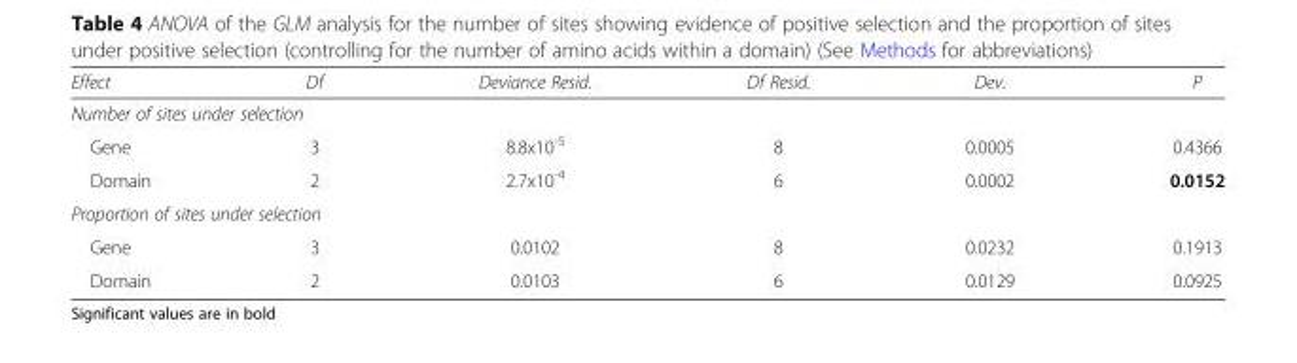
<table><thead><tr><td>Effect</td><td>Df</td><td>Deviance Resid.</td><td>Df Resid.</td><td>Dev.</td><td>P</td></tr></thead><tbody><tr><td colspan="6">Number of sites under selection</td></tr><tr><td>Gene</td><td>3</td><td>8.8x10<sup>-5</sup></td><td>8</td><td>0.0005</td><td>0.4366</td></tr><tr><td>Domain</td><td>2</td><td>2.7x10<sup>-4</sup></td><td>6</td><td>0.0002</td><td>0.0152</td></tr><tr><td colspan="6">Proportion of sites under selection</td></tr><tr><td>Gene</td><td>3</td><td>0.0102</td><td>8</td><td>0.0232</td><td>0.1913</td></tr><tr><td>Domain</td><td>2</td><td>0.0103</td><td>6</td><td>0.0129</td><td>0.0925</td></tr></tbody></table>